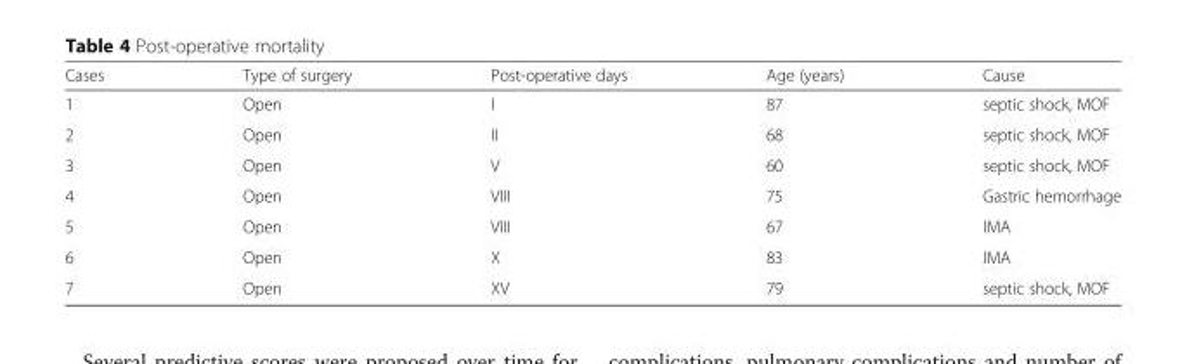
<table><thead><tr><td>Cases</td><td>Type of surgery</td><td>Post-operative days</td><td>Age (years)</td><td>Cause</td></tr></thead><tbody><tr><td>1</td><td>Open</td><td>I</td><td>87</td><td>septic shock, MOF</td></tr><tr><td>2</td><td>Open</td><td>II</td><td>68</td><td>septic shock, MOF</td></tr><tr><td>3</td><td>Open</td><td>V</td><td>60</td><td>septic shock, MOF</td></tr><tr><td>4</td><td>Open</td><td>VIII</td><td>75</td><td>Gastric hemorrhage</td></tr><tr><td>5</td><td>Open</td><td>VIII</td><td>67</td><td>IMA</td></tr><tr><td>6</td><td>Open</td><td>X</td><td>83</td><td>IMA</td></tr><tr><td>7</td><td>Open</td><td>XV</td><td>79</td><td>septic shock, MOF</td></tr></tbody></table>